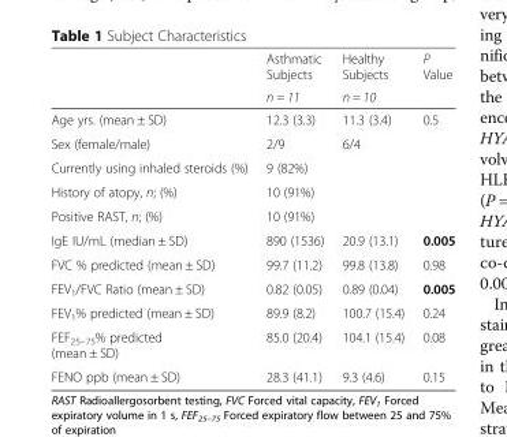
<table><thead><tr><td rowspan="2"></td><td rowspan="2">Asthmatic Subjects n = 11</td><td rowspan="2">Healthy Subjects n = 10</td><td rowspan="2">P Value</td></tr><tr></tr></thead><tbody><tr><td>Age yrs. (mean ± SD)</td><td>12.3 (3.3)</td><td>11.3 (3.4)</td><td>0.5</td></tr><tr><td>Sex (female/male)</td><td>2/9</td><td>6/4</td><td></td></tr><tr><td>Currently using inhaled steroids (%)</td><td>9 (82%)</td><td></td><td></td></tr><tr><td>History of atopy, n; (%)</td><td>10 (91%)</td><td></td><td></td></tr><tr><td>Positive RAST, n; (%)</td><td>10 (91%)</td><td></td><td></td></tr><tr><td>IgE IU/mL (median ± SD)</td><td>890 (1536)</td><td>20.9 (13.1)</td><td>0.005</td></tr><tr><td>FVC % predicted (mean ± SD)</td><td>99.7 (11.2)</td><td>99.8 (13.8)</td><td>0.98</td></tr><tr><td>FEV<sub>1</sub>/FVC Ratio (mean ± SD)</td><td>0.82 (0.05)</td><td>0.89 (0.04)</td><td>0.005</td></tr><tr><td>FEV<sub>1</sub>% predicted (mean ± SD)</td><td>89.9 (8.2)</td><td>100.7 (15.4)</td><td>0.24</td></tr><tr><td>FEF<sub>25–75</sub>% predicted (mean ± SD)</td><td>85.0 (20.4)</td><td>104.1 (15.4)</td><td>0.08</td></tr><tr><td>FENO ppb (mean ± SD)</td><td>28.3 (41.1)</td><td>9.3 (4.6)</td><td>0.15</td></tr></tbody></table>